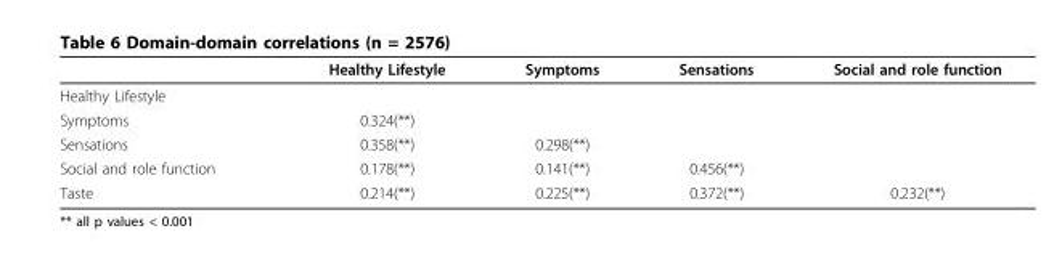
<table><thead><tr><td></td><td>Healthy Lifestyle</td><td>Symptoms</td><td>Sensations</td><td>Social and role function</td></tr></thead><tbody><tr><td colspan="5">Healthy Lifestyle</td></tr><tr><td>Symptoms</td><td>0.324(**)</td><td></td><td></td><td></td></tr><tr><td>Sensations</td><td>0.358(**)</td><td>0.298(**)</td><td></td><td></td></tr><tr><td>Social and role function</td><td>0.178(**)</td><td>0.141(**)</td><td>0.456(**)</td><td></td></tr><tr><td>Taste</td><td>0.214(**)</td><td>0.225(**)</td><td>0.372(**)</td><td>0.232(**)</td></tr></tbody></table>